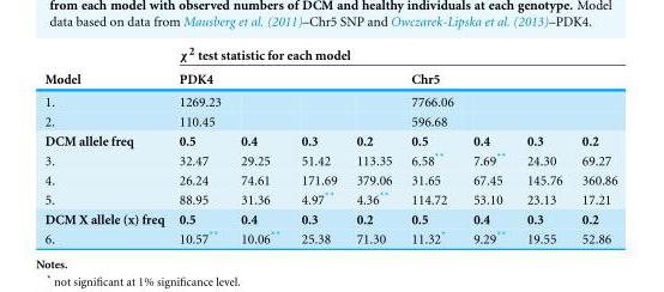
<table><thead><tr><td rowspan="2">Model</td><td colspan="8">χ<sup>2</sup> test statistic for each model</td></tr><tr><td>PDK4</td><td></td><td></td><td></td><td>Chr5</td><td></td><td></td><td></td></tr></thead><tbody><tr><td>1.</td><td>1269.23</td><td></td><td></td><td></td><td>7766.06</td><td></td><td></td><td></td></tr><tr><td>2.</td><td>110.45</td><td></td><td></td><td></td><td>596.68</td><td></td><td></td><td></td></tr><tr><td>DCM allele freq</td><td>0.5</td><td>0.4</td><td>0.3</td><td>0.2</td><td>0.5</td><td>0.4</td><td>0.3</td><td>0.2</td></tr><tr><td>3.</td><td>32.47</td><td>29.25</td><td>51.42</td><td>113.35</td><td>6.58**</td><td>7.69**</td><td>24.30</td><td>69.27</td></tr><tr><td>4.</td><td>26.24</td><td>74.61</td><td>171.69</td><td>379.06</td><td>31.65</td><td>67.45</td><td>145.76</td><td>360.86</td></tr><tr><td>5.</td><td>88.95</td><td>31.36</td><td>4.97**</td><td>4.36**</td><td>114.72</td><td>53.10</td><td>23.13</td><td>17.21</td></tr><tr><td>DCM X allele (x) freq</td><td>0.5</td><td>0.4</td><td>0.3</td><td>0.2</td><td>0.5</td><td>0.4</td><td>0.3</td><td>0.2</td></tr><tr><td>6.</td><td>10.57**</td><td>10.06**</td><td>25.38</td><td>71.30</td><td>11.32*</td><td>9.29**</td><td>19.55</td><td>52.86</td></tr></tbody></table>